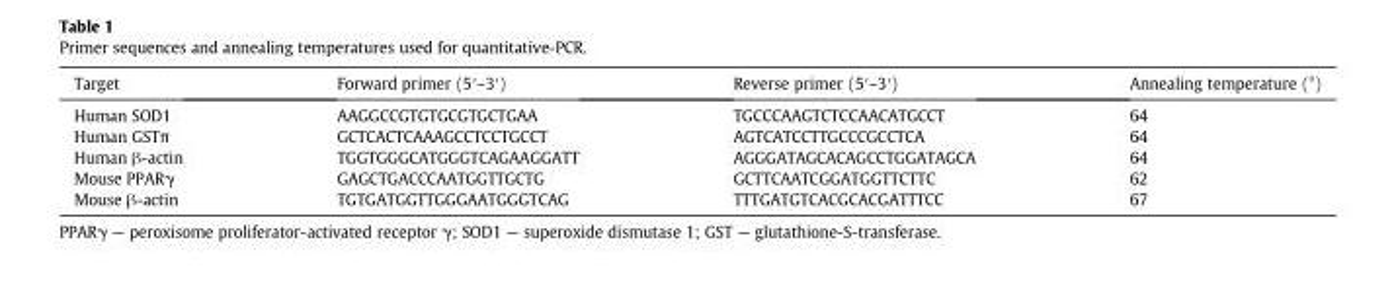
<table><thead><tr><td>Target</td><td>Forward primer (5′–3′)</td><td>Reverse primer (5′–3′)</td><td>Annealing temperature (°)</td></tr></thead><tbody><tr><td>Human SOD1</td><td>AAGGCCGTGTGCGTGCTGAA</td><td>TGCCCAAGTCTCCAACATGCCT</td><td>64</td></tr><tr><td>Human GSTπ</td><td>GCTCACTCAAAGCCTCCTGCCT</td><td>AGTCATCCTTGCCCGCCTCA</td><td>64</td></tr><tr><td>Human β-actin</td><td>TGGTGGGCATGGGTCAGAAGGATT</td><td>AGGGATAGCACAGCCTGGATAGCA</td><td>64</td></tr><tr><td>Mouse PPARγ</td><td>GAGCTGACCCAATGGTTGCTG</td><td>GCTTCAATCGGATGGTTCTTC</td><td>62</td></tr><tr><td>Mouse β-actin</td><td>TGTGATGGTTGGGAATGGGTCAG</td><td>TTTGATGTCACGCACGATTTCC</td><td>67</td></tr></tbody></table>